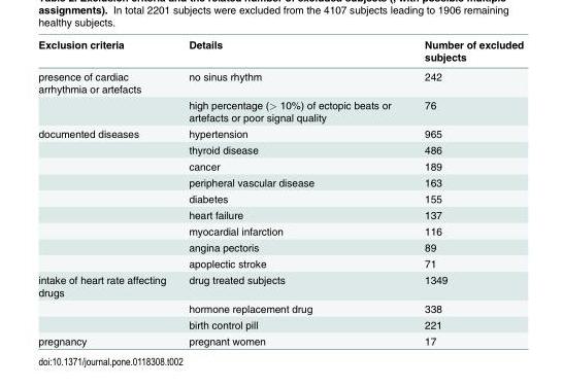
<table><thead><tr><td>Exclusion criteria</td><td>Details</td><td>Number of excluded subjects</td></tr></thead><tbody><tr><td rowspan="2">presence of cardiac arrhythmia or artefacts</td><td>no sinus rhythm</td><td>242</td></tr><tr><td>high percentage (&gt; 10%) of ectopic beats or artefacts or poor signal quality</td><td>76</td></tr><tr><td rowspan="9">documented diseases</td><td>hypertension</td><td>965</td></tr><tr><td>thyroid disease</td><td>486</td></tr><tr><td>cancer</td><td>189</td></tr><tr><td>peripheral vascular disease</td><td>163</td></tr><tr><td>diabetes</td><td>155</td></tr><tr><td>heart failure</td><td>137</td></tr><tr><td>myocardial infarction</td><td>116</td></tr><tr><td>angina pectoris</td><td>89</td></tr><tr><td>apoplectic stroke</td><td>71</td></tr><tr><td rowspan="3">intake of heart rate affecting drugs</td><td>drug treated subjects</td><td>1349</td></tr><tr><td>hormone replacement drug</td><td>338</td></tr><tr><td>birth control pill</td><td>221</td></tr><tr><td>pregnancy</td><td>pregnant women</td><td>17</td></tr></tbody></table>